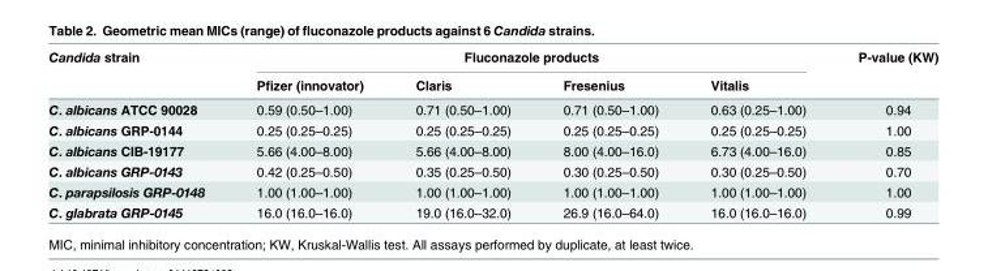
<table><thead><tr><td rowspan="2">Candida strain</td><td colspan="4">Fluconazole products</td><td rowspan="2">P-value (KW)</td></tr><tr><td>Pfizer (innovator)</td><td>Claris</td><td>Fresenius</td><td>Vitalis</td></tr></thead><tbody><tr><td>C. albicans ATCC 90028</td><td>0.59 (0.50–1.00)</td><td>0.71 (0.50–1.00)</td><td>0.71 (0.50–1.00)</td><td>0.63 (0.25–1.00)</td><td>0.94</td></tr><tr><td>C. albicans GRP-0144</td><td>0.25 (0.25–0.25)</td><td>0.25 (0.25–0.25)</td><td>0.25 (0.25–0.25)</td><td>0.25 (0.25–0.25)</td><td>1.00</td></tr><tr><td>C. albicans CIB-19177</td><td>5.66 (4.00–8.00)</td><td>5.66 (4.00–8.00)</td><td>8.00 (4.00–16.0)</td><td>6.73 (4.00–16.0)</td><td>0.85</td></tr><tr><td>C. albicans GRP-0143</td><td>0.42 (0.25–0.50)</td><td>0.35 (0.25–0.50)</td><td>0.30 (0.25–0.50)</td><td>0.30 (0.25–0.50)</td><td>0.70</td></tr><tr><td>C. parapsilosis GRP-0148</td><td>1.00 (1.00–1.00)</td><td>1.00 (1.00–1.00)</td><td>1.00 (1.00–1.00)</td><td>1.00 (1.00–1.00)</td><td>1.00</td></tr><tr><td>C. glabrata GRP-0145</td><td>16.0 (16.0–16.0)</td><td>19.0 (16.0–32.0)</td><td>26.9 (16.0–64.0)</td><td>16.0 (16.0–16.0)</td><td>0.99</td></tr></tbody></table>